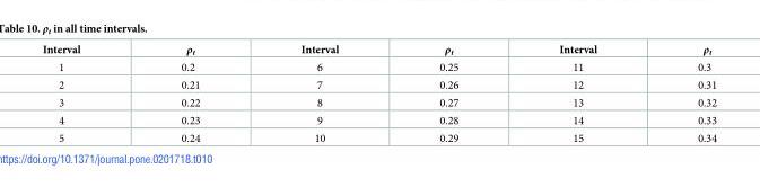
<table><thead><tr><td>Interval</td><td>ρ<sub>t</sub></td><td>Interval</td><td>ρ<sub>t</sub></td><td>Interval</td><td>ρ<sub>t</sub></td></tr></thead><tbody><tr><td>1</td><td>0.2</td><td>6</td><td>0.25</td><td>11</td><td>0.3</td></tr><tr><td>2</td><td>0.21</td><td>7</td><td>0.26</td><td>12</td><td>0.31</td></tr><tr><td>3</td><td>0.22</td><td>8</td><td>0.27</td><td>13</td><td>0.32</td></tr><tr><td>4</td><td>0.23</td><td>9</td><td>0.28</td><td>14</td><td>0.33</td></tr><tr><td>5</td><td>0.24</td><td>10</td><td>0.29</td><td>15</td><td>0.34</td></tr></tbody></table>